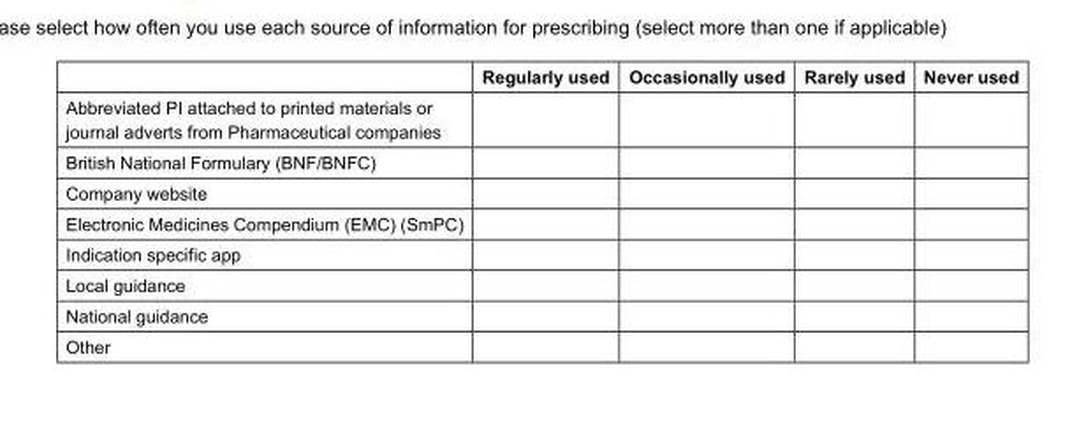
<table><thead><tr><td></td><td>Regularly used</td><td>Occasionally used</td><td>Rarely used</td><td>Never used</td></tr></thead><tbody><tr><td colspan="5">Abbreviated PI attached to printed materials or journal adverts from Pharmaceutical companies</td></tr><tr><td colspan="5">British National Formulary (BNF/BNFC)</td></tr><tr><td colspan="5">Company website</td></tr><tr><td colspan="5">Electronic Medicines Compendium (EMC) (SmPC)</td></tr><tr><td colspan="5">Indication specific app</td></tr><tr><td colspan="5">Local guidance</td></tr><tr><td colspan="5">National guidance</td></tr><tr><td>Other</td><td></td><td></td><td></td><td></td></tr></tbody></table>